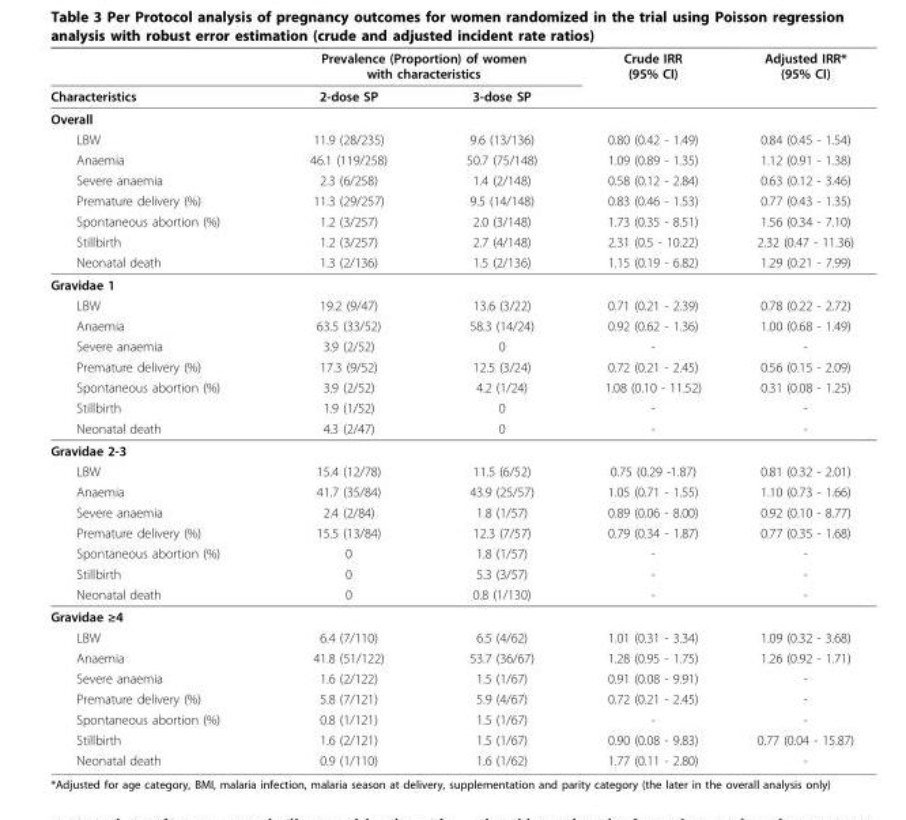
<table><thead><tr><td rowspan="2">Characteristics</td><td colspan="2">Prevalence (Proportion) of women with characteristics</td><td rowspan="2">Crude IRR (95% CI)</td><td rowspan="2">Adjusted IRR* (95% CI)</td></tr><tr><td>2-dose SP</td><td>3-dose SP</td></tr></thead><tbody><tr><td colspan="5">Overall</td></tr><tr><td>LBW</td><td>11.9 (28/235)</td><td>9.6 (13/136)</td><td>0.80 (0.42 - 1.49)</td><td>0.84 (0.45 - 1.54)</td></tr><tr><td>Anaemia</td><td>46.1 (119/258)</td><td>50.7 (75/148)</td><td>1.09 (0.89 - 1.35)</td><td>1.12 (0.91 - 1.38)</td></tr><tr><td>Severe anaemia</td><td>2.3 (6/258)</td><td>1.4 (2/148)</td><td>0.58 (0.12 - 2.84)</td><td>0.63 (0.12 - 3.46)</td></tr><tr><td>Premature delivery (%)</td><td>11.3 (29/257)</td><td>9.5 (14/148)</td><td>0.83 (0.46 - 1.53)</td><td>0.77 (0.43 - 1.35)</td></tr><tr><td>Spontaneous abortion (%)</td><td>1.2 (3/257)</td><td>2.0 (3/148)</td><td>1.73 (0.35 - 8.51)</td><td>1.56 (0.34 - 7.10)</td></tr><tr><td>Stillbirth</td><td>1.2 (3/257)</td><td>2.7 (4/148)</td><td>2.31 (0.5 - 10.22)</td><td>2.32 (0.47 - 11.36)</td></tr><tr><td>Neonatal death</td><td>1.3 (2/136)</td><td>1.5 (2/136)</td><td>1.15 (0.19 - 6.82)</td><td>1.29 (0.21 - 7.99)</td></tr><tr><td colspan="5">Gravidae 1</td></tr><tr><td>LBW</td><td>19.2 (9/47)</td><td>13.6 (3/22)</td><td>0.71 (0.21 - 2.39)</td><td>0.78 (0.22 - 2.72)</td></tr><tr><td>Anaemia</td><td>63.5 (33/52)</td><td>58.3 (14/24)</td><td>0.92 (0.62 - 1.36)</td><td>1.00 (0.68 - 1.49)</td></tr><tr><td>Severe anaemia</td><td>3.9 (2/52)</td><td>0</td><td>-</td><td>-</td></tr><tr><td>Premature delivery (%)</td><td>17.3 (9/52)</td><td>12.5 (3/24)</td><td>0.72 (0.21 - 2.45)</td><td>0.56 (0.15 - 2.09)</td></tr><tr><td>Spontaneous abortion (%)</td><td>3.9 (2/52)</td><td>4.2 (1/24)</td><td>1.08 (0.10 - 11.52)</td><td>0.31 (0.08 - 1.25)</td></tr><tr><td>Stillbirth</td><td>1.9 (1/52)</td><td>0</td><td>-</td><td>-</td></tr><tr><td>Neonatal death</td><td>4.3 (2/47)</td><td>0</td><td>-</td><td>-</td></tr><tr><td colspan="5">Gravidae 2-3</td></tr><tr><td>LBW</td><td>15.4 (12/78)</td><td>11.5 (6/52)</td><td>0.75 (0.29 -1.87)</td><td>0.81 (0.32 - 2.01)</td></tr><tr><td>Anaemia</td><td>41.7 (35/84)</td><td>43.9 (25/57)</td><td>1.05 (0.71 - 1.55)</td><td>1.10 (0.73 - 1.66)</td></tr><tr><td>Severe anaemia</td><td>2.4 (2/84)</td><td>1.8 (1/57)</td><td>0.89 (0.06 - 8.00)</td><td>0.92 (0.10 - 8.77)</td></tr><tr><td>Premature delivery (%)</td><td>15.5 (13/84)</td><td>12.3 (7/57)</td><td>0.79 (0.34 - 1.87)</td><td>0.77 (0.35 - 1.68)</td></tr><tr><td>Spontaneous abortion (%)</td><td>0</td><td>1.8 (1/57)</td><td>-</td><td>-</td></tr><tr><td>Stillbirth</td><td>0</td><td>5.3 (3/57)</td><td>-</td><td>-</td></tr><tr><td>Neonatal death</td><td>0</td><td>0.8 (1/130)</td><td>-</td><td>-</td></tr><tr><td colspan="5">Gravidae ≥4</td></tr><tr><td>LBW</td><td>6.4 (7/110)</td><td>6.5 (4/62)</td><td>1.01 (0.31 - 3.34)</td><td>1.09 (0.32 - 3.68)</td></tr><tr><td>Anaemia</td><td>41.8 (51/122)</td><td>53.7 (36/67)</td><td>1.28 (0.95 - 1.75)</td><td>1.26 (0.92 - 1.71)</td></tr><tr><td>Severe anaemia</td><td>1.6 (2/122)</td><td>1.5 (1/67)</td><td>0.91 (0.08 - 9.91)</td><td>-</td></tr><tr><td>Premature delivery (%)</td><td>5.8 (7/121)</td><td>5.9 (4/67)</td><td>0.72 (0.21 - 2.45)</td><td>-</td></tr><tr><td>Spontaneous abortion (%)</td><td>0.8 (1/121)</td><td>1.5 (1/67)</td><td>-</td><td>-</td></tr><tr><td>Stillbirth</td><td>1.6 (2/121)</td><td>1.5 (1/67)</td><td>0.90 (0.08 - 9.83)</td><td>0.77 (0.04 - 15.87)</td></tr><tr><td>Neonatal death</td><td>0.9 (1/110)</td><td>1.6 (1/62)</td><td>1.77 (0.11 - 2.80)</td><td>-</td></tr></tbody></table>